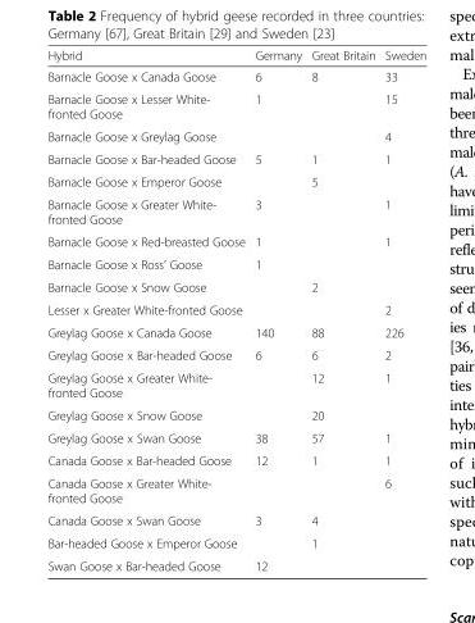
<table><thead><tr><td>Hybrid</td><td>Germany</td><td>Great Britain</td><td>Sweden</td></tr></thead><tbody><tr><td>Barnacle Goose x Canada Goose</td><td>6</td><td>8</td><td>33</td></tr><tr><td>Barnacle Goose x Lesser White- fronted Goose</td><td>1</td><td></td><td>15</td></tr><tr><td>Barnacle Goose x Greylag Goose</td><td></td><td></td><td>4</td></tr><tr><td>Barnacle Goose x Bar-headed Goose</td><td>5</td><td>1</td><td>1</td></tr><tr><td>Barnacle Goose x Emperor Goose</td><td></td><td>5</td><td></td></tr><tr><td>Barnacle Goose x Greater White- fronted Goose</td><td>3</td><td></td><td>1</td></tr><tr><td>Barnacle Goose x Red-breasted Goose</td><td>1</td><td></td><td>1</td></tr><tr><td>Barnacle Goose x Ross’ Goose</td><td>1</td><td></td><td></td></tr><tr><td>Barnacle Goose x Snow Goose</td><td></td><td>2</td><td></td></tr><tr><td>Lesser x Greater White-fronted Goose</td><td></td><td></td><td>2</td></tr><tr><td>Greylag Goose x Canada Goose</td><td>140</td><td>88</td><td>226</td></tr><tr><td>Greylag Goose x Bar-headed Goose</td><td>6</td><td>6</td><td>2</td></tr><tr><td>Greylag Goose x Greater White- fronted Goose</td><td></td><td>12</td><td>1</td></tr><tr><td>Greylag Goose x Snow Goose</td><td></td><td>20</td><td></td></tr><tr><td>Greylag Goose x Swan Goose</td><td>38</td><td>57</td><td>1</td></tr><tr><td>Canada Goose x Bar-headed Goose</td><td>12</td><td>1</td><td>1</td></tr><tr><td>Canada Goose x Greater White- fronted Goose</td><td></td><td></td><td>6</td></tr><tr><td>Canada Goose x Swan Goose</td><td>3</td><td>4</td><td></td></tr><tr><td>Bar-headed Goose x Emperor Goose</td><td></td><td>1</td><td></td></tr><tr><td>Swan Goose x Bar-headed Goose</td><td>12</td><td></td><td></td></tr></tbody></table>